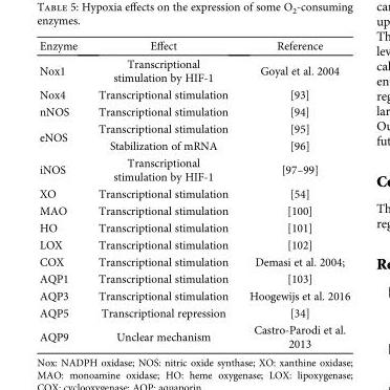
<table><thead><tr><td>Enzyme</td><td>Effect</td><td>Reference</td></tr></thead><tbody><tr><td>Nox1</td><td>Transcriptional stimulation by HIF-1</td><td>Goyal et al. 2004</td></tr><tr><td>Nox4</td><td>Transcriptional stimulation</td><td>[93]</td></tr><tr><td>nNOS</td><td>Transcriptional stimulation</td><td>[94]</td></tr><tr><td rowspan="2">eNOS</td><td>Transcriptional stimulation</td><td>[95]</td></tr><tr><td>Stabilization of mRNA</td><td>[96]</td></tr><tr><td>iNOS</td><td>Transcriptional stimulation by HIF-1</td><td>[97–99]</td></tr><tr><td>XO</td><td>Transcriptional stimulation</td><td>[54]</td></tr><tr><td>MAO</td><td>Transcriptional stimulation</td><td>[100]</td></tr><tr><td>HO</td><td>Transcriptional stimulation</td><td>[101]</td></tr><tr><td>LOX</td><td>Transcriptional stimulation</td><td>[102]</td></tr><tr><td>COX</td><td>Transcriptional stimulation</td><td>Demasi et al. 2004;</td></tr><tr><td>AQP1</td><td>Transcriptional stimulation</td><td>[103]</td></tr><tr><td>AQP3</td><td>Transcriptional stimulation</td><td>Hoogewijs et al. 2016</td></tr><tr><td>AQP5</td><td>Transcriptional repression</td><td>[34]</td></tr><tr><td>AQP9</td><td>Unclear mechanism</td><td>Castro-Parodi et al. 2013</td></tr></tbody></table>